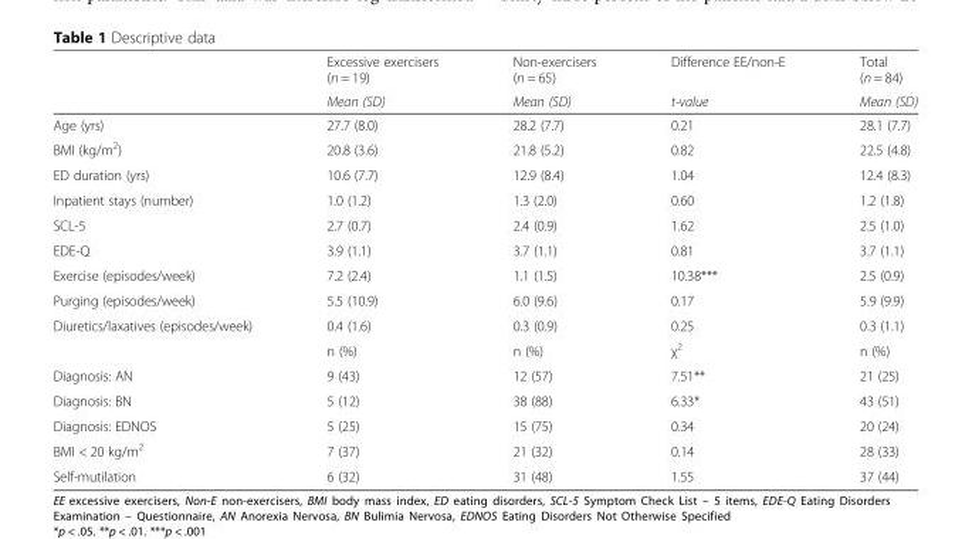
<table><thead><tr><td rowspan="2"></td><td rowspan="2">Excessive exercisers (n = 19) Mean (SD)</td><td rowspan="2">Non-exercisers (n = 65) Mean (SD)</td><td rowspan="2">Difference EE/non-E t-value</td><td rowspan="2">Total (n = 84) Mean (SD)</td></tr><tr></tr></thead><tbody><tr><td>Age (yrs)</td><td>27.7 (8.0)</td><td>28.2 (7.7)</td><td>0.21</td><td>28.1 (7.7)</td></tr><tr><td>BMI (kg/m<sup>2</sup>)</td><td>20.8 (3.6)</td><td>21.8 (5.2)</td><td>0.82</td><td>22.5 (4.8)</td></tr><tr><td>ED duration (yrs)</td><td>10.6 (7.7)</td><td>12.9 (8.4)</td><td>1.04</td><td>12.4 (8.3)</td></tr><tr><td>Inpatient stays (number)</td><td>1.0 (1.2)</td><td>1.3 (2.0)</td><td>0.60</td><td>1.2 (1.8)</td></tr><tr><td>SCL-5</td><td>2.7 (0.7)</td><td>2.4 (0.9)</td><td>1.62</td><td>2.5 (1.0)</td></tr><tr><td>EDE-Q</td><td>3.9 (1.1)</td><td>3.7 (1.1)</td><td>0.81</td><td>3.7 (1.1)</td></tr><tr><td>Exercise (episodes/week)</td><td>7.2 (2.4)</td><td>1.1 (1.5)</td><td>10.38***</td><td>2.5 (0.9)</td></tr><tr><td>Purging (episodes/week)</td><td>5.5 (10.9)</td><td>6.0 (9.6)</td><td>0.17</td><td>5.9 (9.9)</td></tr><tr><td rowspan="2">Diuretics/laxatives (episodes/week)</td><td>0.4 (1.6)</td><td>0.3 (0.9)</td><td>0.25</td><td>0.3 (1.1)</td></tr><tr><td>n (%)</td><td>n (%)</td><td>χ<sup>2</sup></td><td>n (%)</td></tr><tr><td>Diagnosis: AN</td><td>9 (43)</td><td>12 (57)</td><td>7.51**</td><td>21 (25)</td></tr><tr><td>Diagnosis: BN</td><td>5 (12)</td><td>38 (88)</td><td>6.33*</td><td>43 (51)</td></tr><tr><td>Diagnosis: EDNOS</td><td>5 (25)</td><td>15 (75)</td><td>0.34</td><td>20 (24)</td></tr><tr><td>BMI &lt; 20 kg/m<sup>2</sup></td><td>7 (37)</td><td>21 (32)</td><td>0.14</td><td>28 (33)</td></tr><tr><td>Self-mutilation</td><td>6 (32)</td><td>31 (48)</td><td>1.55</td><td>37 (44)</td></tr></tbody></table>